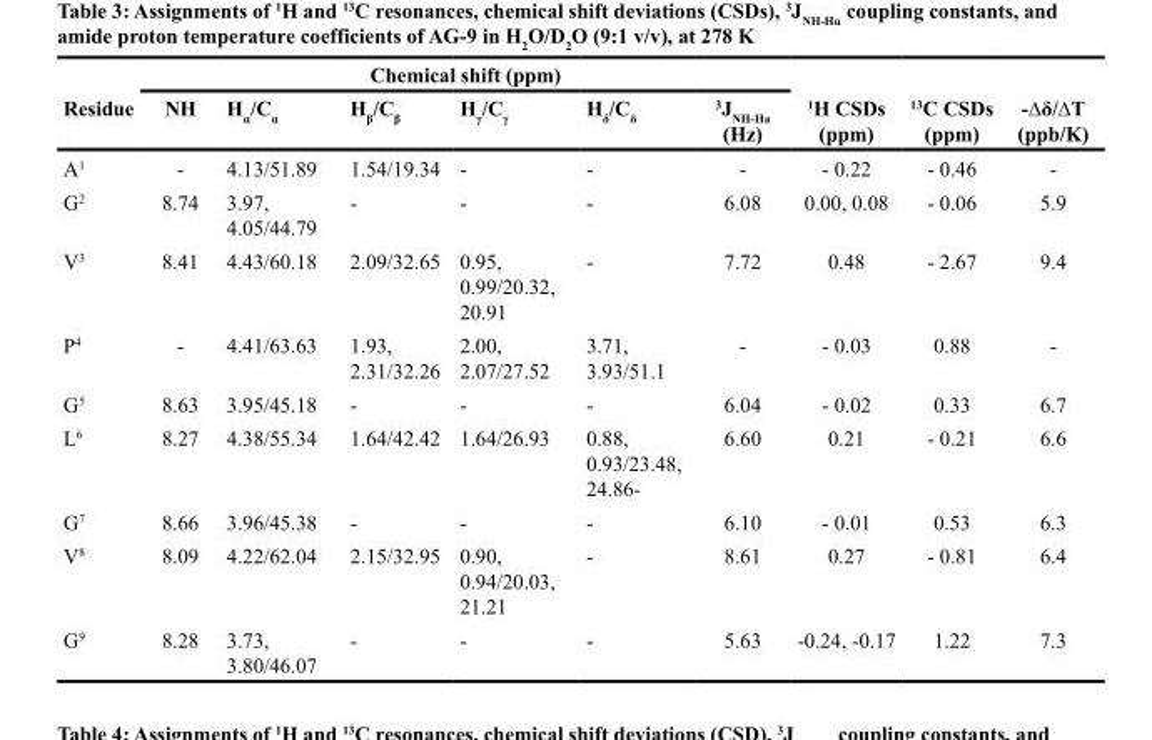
<table><thead><tr><td rowspan="2">Residue</td><td colspan="6">Chemical shift (ppm)</td><td rowspan="2"><sup>1</sup>H CSDs (ppm)</td><td rowspan="2"><sup>13</sup>C CSDs (ppm)</td><td rowspan="2">-∆δ/∆T (ppb/K)</td></tr><tr><td>NH</td><td>H<sub>ɑ</sub>/C<sub>ɑ</sub></td><td>H<sub>β</sub>/C<sub>β</sub></td><td>H<sub>γ</sub>/C<sub>γ</sub></td><td>H<sub>δ</sub>/C<sub>δ</sub></td><td><sup>3</sup>J<sub>NH-Ha</sub> (Hz)</td></tr></thead><tbody><tr><td>A<sup>1</sup></td><td>-</td><td>4.13/51.89</td><td>1.54/19.34</td><td>-</td><td>-</td><td>-</td><td>- 0.22</td><td>- 0.46</td><td>-</td></tr><tr><td>G<sup>2</sup></td><td>8.74</td><td>3.97, 4.05/44.79</td><td>-</td><td>-</td><td>-</td><td>6.08</td><td>0.00, 0.08</td><td>- 0.06</td><td>5.9</td></tr><tr><td>V<sup>3</sup></td><td>8.41</td><td>4.43/60.18</td><td>2.09/32.65</td><td>0.95, 0.99/20.32, 20.91</td><td>-</td><td>7.72</td><td>0.48</td><td>- 2.67</td><td>9.4</td></tr><tr><td>P<sup>4</sup></td><td>-</td><td>4.41/63.63</td><td>1.93, 2.31/32.26</td><td>2.00, 2.07/27.52</td><td>3.71, 3.93/51.1</td><td>-</td><td>- 0.03</td><td>0.88</td><td>-</td></tr><tr><td>G<sup>5</sup></td><td>8.63</td><td>3.95/45.18</td><td>-</td><td>-</td><td>-</td><td>6.04</td><td>- 0.02</td><td>0.33</td><td>6.7</td></tr><tr><td>L<sup>6</sup></td><td>8.27</td><td>4.38/55.34</td><td>1.64/42.42</td><td>1.64/26.93</td><td>0.88, 0.93/23.48, 24.86-</td><td>6.60</td><td>0.21</td><td>- 0.21</td><td>6.6</td></tr><tr><td>G<sup>7</sup></td><td>8.66</td><td>3.96/45.38</td><td>-</td><td>-</td><td>-</td><td>6.10</td><td>- 0.01</td><td>0.53</td><td>6.3</td></tr><tr><td>V<sup>8</sup></td><td>8.09</td><td>4.22/62.04</td><td>2.15/32.95</td><td>0.90, 0.94/20.03, 21.21</td><td>-</td><td>8.61</td><td>0.27</td><td>- 0.81</td><td>6.4</td></tr><tr><td>G<sup>9</sup></td><td>8.28</td><td>3.73, 3.80/46.07</td><td>-</td><td>-</td><td>-</td><td>5.63</td><td>-0.24, -0.17</td><td>1.22</td><td>7.3</td></tr></tbody></table>